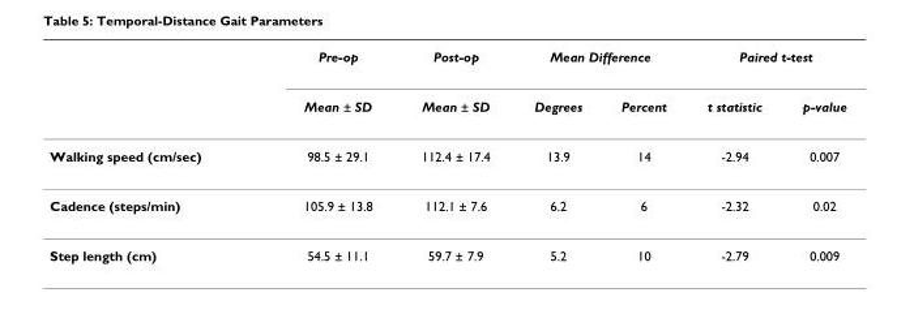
<table><thead><tr><td rowspan="2"></td><td rowspan="2">Pre-op Mean ± SD</td><td rowspan="2">Post-op Mean ± SD</td><td colspan="2">Mean Difference</td><td colspan="2">Paired t-test</td></tr><tr><td>Degrees</td><td>Percent</td><td>t statistic</td><td>p-value</td></tr></thead><tbody><tr><td>Walking speed (cm/sec)</td><td>98.5 ± 29.1</td><td>112.4 ± 17.4</td><td>13.9</td><td>14</td><td>-2.94</td><td>0.007</td></tr><tr><td>Cadence (steps/min)</td><td>105.9 ± 13.8</td><td>112.1 ± 7.6</td><td>6.2</td><td>6</td><td>-2.32</td><td>0.02</td></tr><tr><td>Step length (cm)</td><td>54.5 ± 11.1</td><td>59.7 ± 7.9</td><td>5.2</td><td>10</td><td>-2.79</td><td>0.009</td></tr></tbody></table>